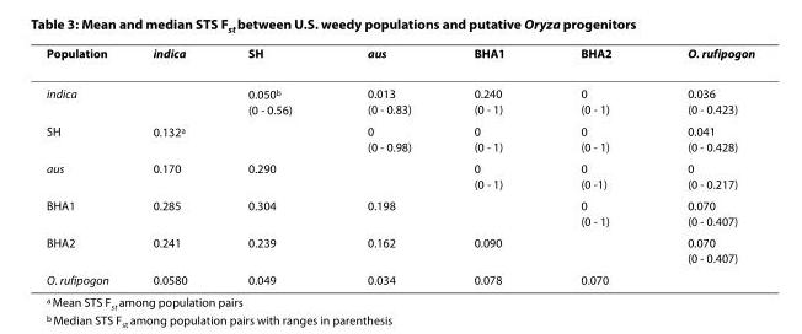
<table><thead><tr><td>Population</td><td>indica</td><td>SH</td><td>aus</td><td>BHA1</td><td>BHA2</td><td>O. rufipogon</td></tr></thead><tbody><tr><td>indica</td><td></td><td>0.050<sup>b</sup> (0 - 0.56)</td><td>0.013 (0 - 0.83)</td><td>0.240 (0 - 1)</td><td>0 (0 - 1)</td><td>0.036 (0 - 0.423)</td></tr><tr><td>SH</td><td>0.132<sup>a</sup></td><td></td><td>0 (0 - 0.98)</td><td>0 (0 - 1)</td><td>0 (0 - 1)</td><td>0.041 (0 - 0.428)</td></tr><tr><td>aus</td><td>0.170</td><td>0.290</td><td></td><td>0 (0 - 1)</td><td>0 (0 -1)</td><td>0 (0 - 0.217)</td></tr><tr><td>BHA1</td><td>0.285</td><td>0.304</td><td>0.198</td><td></td><td>0 (0 - 1)</td><td>0.070 (0 - 0.407)</td></tr><tr><td>BHA2</td><td>0.241</td><td>0.239</td><td>0.162</td><td>0.090</td><td></td><td>0.070 (0 - 0.407)</td></tr><tr><td>O. rufipogon</td><td>0.0580</td><td>0.049</td><td>0.034</td><td>0.078</td><td>0.070</td><td></td></tr></tbody></table>